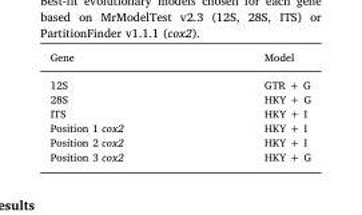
<table><thead><tr><td>Gene</td><td>Model</td></tr></thead><tbody><tr><td>12S</td><td>GTR + G</td></tr><tr><td>28S</td><td>HKY + G</td></tr><tr><td>ITS</td><td>HKY + I</td></tr><tr><td>Position 1 cox2</td><td>HKY + I</td></tr><tr><td>Position 2 cox2</td><td>HKY + I</td></tr><tr><td>Position 3 cox2</td><td>HKY + G</td></tr></tbody></table>